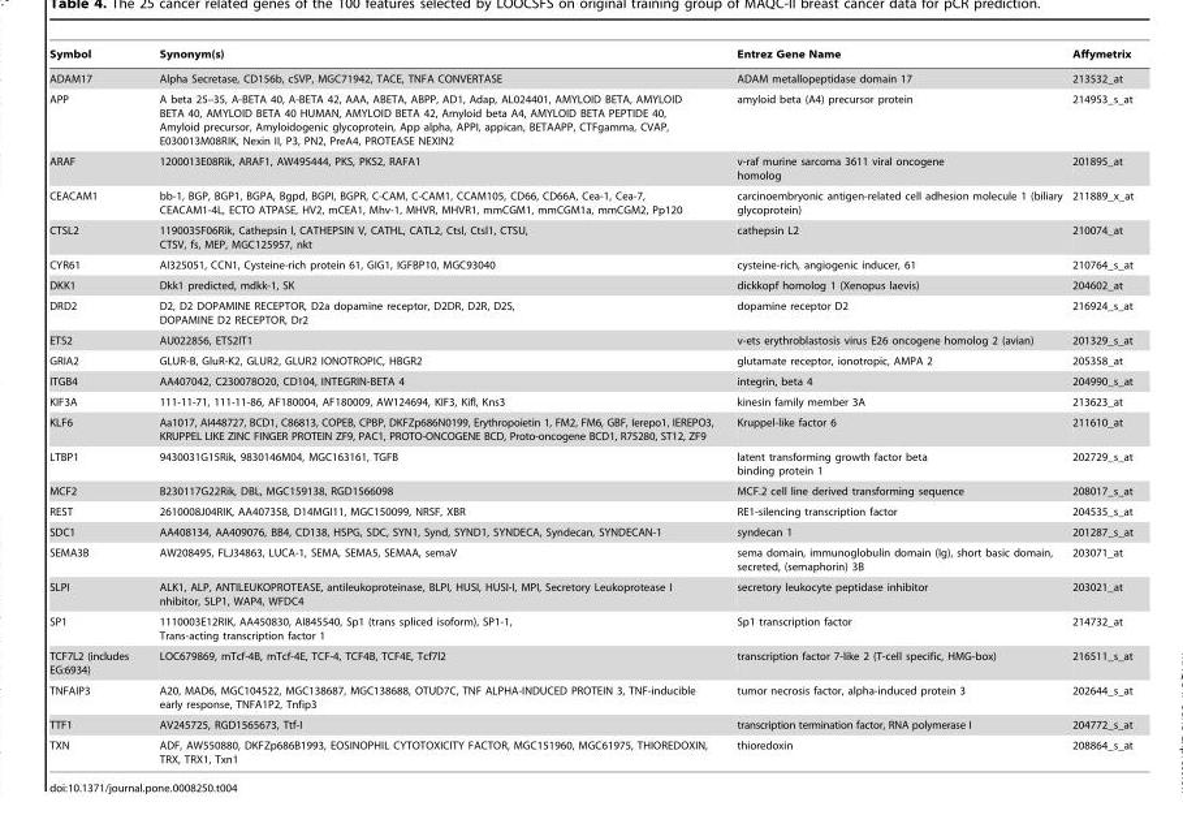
<table><thead><tr><td>Symbol</td><td>Synonym(s)</td><td>Entrez Gene Name</td><td>Affymetrix</td></tr></thead><tbody><tr><td>ADAM17</td><td>Alpha Secretase, CD156b, cSVP, MGC71942, TACE, TNFA CONVERTASE</td><td>ADAM metallopeptidase domain 17</td><td>213532_at</td></tr><tr><td>APP</td><td>A beta 25–35, A-BETA 40, A-BETA 42, AAA, ABETA, ABPP, AD1, Adap, AL024401, AMYLOID BETA, AMYLOID BETA 40, AMYLOID BETA 40 HUMAN, AMYLOID BETA 42, Amyloid beta A4, AMYLOID BETA PEPTIDE 40, Amyloid precursor, Amyloidogenic glycoprotein, App alpha, APPI, appican, BETAAPP, CTFgamma, CVAP, E030013M08RIK, Nexin II, P3, PN2, PreA4, PROTEASE NEXIN2</td><td>amyloid beta (A4) precursor protein</td><td>214953_s_at</td></tr><tr><td>ARAF</td><td>1200013E08Rik, ARAF1, AW495444, PKS, PKS2, RAFA1</td><td>v-raf murine sarcoma 3611 viral oncogene homolog</td><td>201895_at</td></tr><tr><td>CEACAM1</td><td>bb-1, BGP, BGP1, BGPA, Bgpd, BGPI, BGPR, C-CAM, C-CAM1, CCAM105, CD66, CD66A, Cea-1, Cea-7, CEACAM1-4L, ECTO ATPASE, HV2, mCEA1, Mhv-1, MHVR, MHVR1, mmCGM1, mmCGM1a, mmCGM2, Pp120</td><td>carcinoembryonic antigen-related cell adhesion molecule 1 (biliary glycoprotein)</td><td>211889_x_at</td></tr><tr><td>CTSL2</td><td>1190035F06Rik, Cathepsin l, CATHEPSIN V, CATHL, CATL2, Ctsl, Ctsl1, CTSU, CTSV, fs, MEP, MGC125957, nkt</td><td>cathepsin L2</td><td>210074_at</td></tr><tr><td>CYR61</td><td>AI325051, CCN1, Cysteine-rich protein 61, GIG1, IGFBP10, MGC93040</td><td>cysteine-rich, angiogenic inducer, 61</td><td>210764_s_at</td></tr><tr><td>DKK1</td><td>Dkk1 predicted, mdkk-1, SK</td><td>dickkopf homolog 1 (Xenopus laevis)</td><td>204602_at</td></tr><tr><td>DRD2</td><td>D2, D2 DOPAMINE RECEPTOR, D2a dopamine receptor, D2DR, D2R, D2S, DOPAMINE D2 RECEPTOR, Dr2</td><td>dopamine receptor D2</td><td>216924_s_at</td></tr><tr><td>ETS2</td><td>AU022856, ETS2IT1</td><td>v-ets erythroblastosis virus E26 oncogene homolog 2 (avian)</td><td>201329_s_at</td></tr><tr><td>GRIA2</td><td>GLUR-B, GluR-K2, GLUR2, GLUR2 IONOTROPIC, HBGR2</td><td>glutamate receptor, ionotropic, AMPA 2</td><td>205358_at</td></tr><tr><td>ITGB4</td><td>AA407042, C230078O20, CD104, INTEGRIN-BETA 4</td><td>integrin, beta 4</td><td>204990_s_at</td></tr><tr><td>KIF3A</td><td>111-11-71, 111-11-86, AF180004, AF180009, AW124694, KIF3, Kifl, Kns3</td><td>kinesin family member 3A</td><td>213623_at</td></tr><tr><td>KLF6</td><td>Aa1017, AI448727, BCD1, C86813, COPEB, CPBP, DKFZp686N0199, Erythropoietin 1, FM2, FM6, GBF, Ierepo1, IEREPO3, KRUPPEL LIKE ZINC FINGER PROTEIN ZF9, PAC1, PROTO-ONCOGENE BCD, Proto-oncogene BCD1, R75280, ST12, ZF9</td><td>Kruppel-like factor 6</td><td>211610_at</td></tr><tr><td>LTBP1</td><td>9430031G15Rik, 9830146M04, MGC163161, TGFB</td><td>latent transforming growth factor beta binding protein 1</td><td>202729_s_at</td></tr><tr><td>MCF2</td><td>B230117G22Rik, DBL, MGC159138, RGD1566098</td><td>MCF.2 cell line derived transforming sequence</td><td>208017_s_at</td></tr><tr><td>REST</td><td>2610008J04RIK, AA407358, D14MGI11, MGC150099, NRSF, XBR</td><td>RE1-silencing transcription factor</td><td>204535_s_at</td></tr><tr><td>SDC1</td><td>AA408134, AA409076, BB4, CD138, HSPG, SDC, SYN1, Synd, SYND1, SYNDECA, Syndecan, SYNDECAN-1</td><td>syndecan 1</td><td>201287_s_at</td></tr><tr><td>SEMA3B</td><td>AW208495, FLJ34863, LUCA-1, SEMA, SEMA5, SEMAA, semaV</td><td>sema domain, immunoglobulin domain (Ig), short basic domain, secreted, (semaphorin) 3B</td><td>203071_at</td></tr><tr><td>SLPI</td><td>ALK1, ALP, ANTILEUKOPROTEASE, antileukoproteinase, BLPI, HUSI, HUSI-I, MPI, Secretory Leukoprotease I nhibitor, SLP1, WAP4, WFDC4</td><td>secretory leukocyte peptidase inhibitor</td><td>203021_at</td></tr><tr><td>SP1</td><td>1110003E12RIK, AA450830, AI845540, Sp1 (trans spliced isoform), SP1-1, Trans-acting transcription factor 1</td><td>Sp1 transcription factor</td><td>214732_at</td></tr><tr><td>TCF7L2 (includes EG:6934)</td><td>LOC679869, mTcf-4B, mTcf-4E, TCF-4, TCF4B, TCF4E, Tcf7l2</td><td>transcription factor 7-like 2 (T-cell specific, HMG-box)</td><td>216511_s_at</td></tr><tr><td>TNFAIP3</td><td>A20, MAD6, MGC104522, MGC138687, MGC138688, OTUD7C, TNF ALPHA-INDUCED PROTEIN 3, TNF-inducible early response, TNFA1P2, Tnfip3</td><td>tumor necrosis factor, alpha-induced protein 3</td><td>202644_s_at</td></tr><tr><td>TTF1</td><td>AV245725, RGD1565673, Ttf-I</td><td>transcription termination factor, RNA polymerase I</td><td>204772_s_at</td></tr><tr><td>TXN</td><td>ADF, AW550880, DKFZp686B1993, EOSINOPHIL CYTOTOXICITY FACTOR, MGC151960, MGC61975, THIOREDOXIN, TRX, TRX1, Txn1</td><td>thioredoxin</td><td>208864_s_at</td></tr></tbody></table>